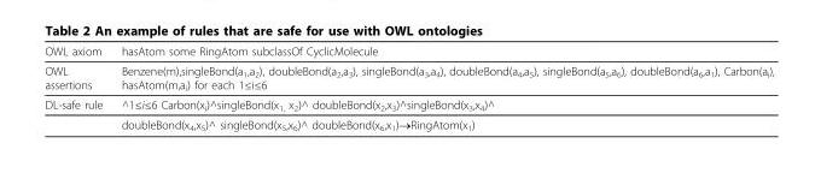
<table><thead><tr><td>OWL axiom</td><td>hasAtom some RingAtom subclassOf CyclicMolecule</td></tr></thead><tbody><tr><td>OWL assertions</td><td>Benzene(m),singleBond(a<sub>1</sub>,a<sub>2</sub>), doubleBond(a<sub>2</sub>,a<sub>3</sub>), singleBond(a<sub>3</sub>,a<sub>4</sub>), doubleBond(a<sub>4</sub>,a<sub>5</sub>), singleBond(a<sub>5</sub>,a<sub>6</sub>), doubleBond(a<sub>6</sub>,a<sub>1</sub>), Carbon(a<sub>i</sub>), hasAtom(m,a<sub>i</sub>) for each 1≤i≤6</td></tr><tr><td rowspan="2">DL-safe rule</td><td>^1≤i≤6 Carbon(x<sub>i</sub>)^singleBond(x<sub>1,</sub> x<sub>2</sub>)^ doubleBond(x<sub>2</sub>,x<sub>3</sub>)^singleBond(x<sub>3</sub>,x<sub>4</sub>)^</td></tr><tr><td>doubleBond(x<sub>4</sub>,x<sub>5</sub>)^ singleBond(x<sub>5</sub>,x<sub>6</sub>)^ doubleBond(x<sub>6</sub>,x<sub>1</sub>)→RingAtom(x<sub>1</sub>)</td></tr></tbody></table>